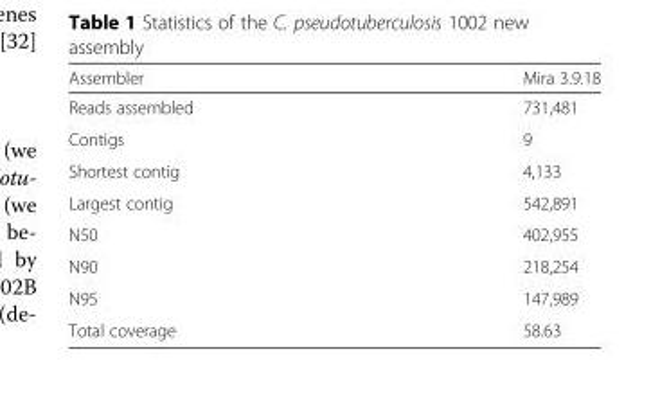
<table><thead><tr><td>Assembler</td><td>Mira 3.9.18</td></tr></thead><tbody><tr><td>Reads assembled</td><td>731,481</td></tr><tr><td>Contigs</td><td>9</td></tr><tr><td>Shortest contig</td><td>4,133</td></tr><tr><td>Largest contig</td><td>542,891</td></tr><tr><td>N50</td><td>402,955</td></tr><tr><td>N90</td><td>218,254</td></tr><tr><td>N95</td><td>147,989</td></tr><tr><td>Total coverage</td><td>58.63</td></tr></tbody></table>